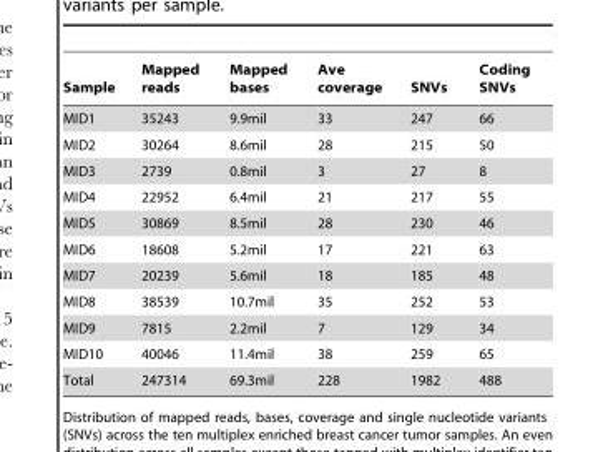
<table><thead><tr><td>Sample</td><td>Mapped reads</td><td>Mapped bases</td><td>Ave coverage</td><td>SNVs</td><td>Coding SNVs</td></tr></thead><tbody><tr><td>MID1</td><td>35243</td><td>9.9mil</td><td>33</td><td>247</td><td>66</td></tr><tr><td>MID2</td><td>30264</td><td>8.6mil</td><td>28</td><td>215</td><td>50</td></tr><tr><td>MID3</td><td>2739</td><td>0.8mil</td><td>3</td><td>27</td><td>8</td></tr><tr><td>MID4</td><td>22952</td><td>6.4mil</td><td>21</td><td>217</td><td>55</td></tr><tr><td>MID5</td><td>30869</td><td>8.5mil</td><td>28</td><td>230</td><td>46</td></tr><tr><td>MID6</td><td>18608</td><td>5.2mil</td><td>17</td><td>221</td><td>63</td></tr><tr><td>MID7</td><td>20239</td><td>5.6mil</td><td>18</td><td>185</td><td>48</td></tr><tr><td>MID8</td><td>38539</td><td>10.7mil</td><td>35</td><td>252</td><td>53</td></tr><tr><td>MID9</td><td>7815</td><td>2.2mil</td><td>7</td><td>129</td><td>34</td></tr><tr><td>MID10</td><td>40046</td><td>11.4mil</td><td>38</td><td>259</td><td>65</td></tr><tr><td>Total</td><td>247314</td><td>69.3mil</td><td>228</td><td>1982</td><td>488</td></tr></tbody></table>